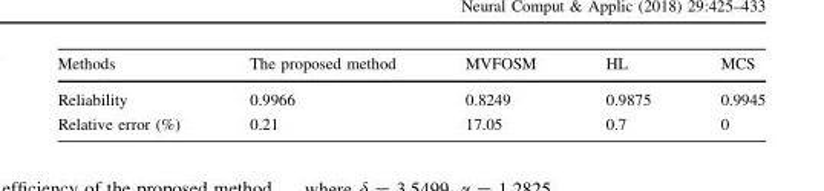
<table><thead><tr><td>Methods</td><td>The proposed method</td><td>MVFOSM</td><td>HL</td><td>MCS</td></tr></thead><tbody><tr><td>Reliability</td><td>0.9966</td><td>0.8249</td><td>0.9875</td><td>0.9945</td></tr><tr><td>Relative error (%)</td><td>0.21</td><td>17.05</td><td>0.7</td><td>0</td></tr></tbody></table>